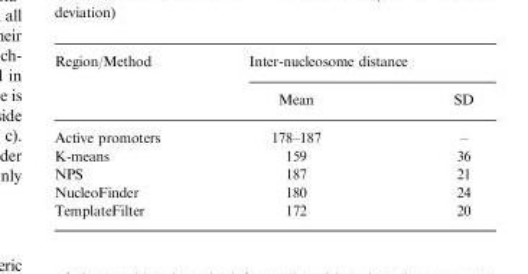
<table><thead><tr><td rowspan="2">Region/Method</td><td colspan="2">Inter-nucleosome distance</td></tr><tr><td>Mean</td><td>SD</td></tr></thead><tbody><tr><td>Active promoters</td><td>178–187</td><td>–</td></tr><tr><td>K-means</td><td>159</td><td>36</td></tr><tr><td>NPS</td><td>187</td><td>21</td></tr><tr><td>NucleoFinder</td><td>180</td><td>24</td></tr><tr><td>TemplateFilter</td><td>172</td><td>20</td></tr></tbody></table>